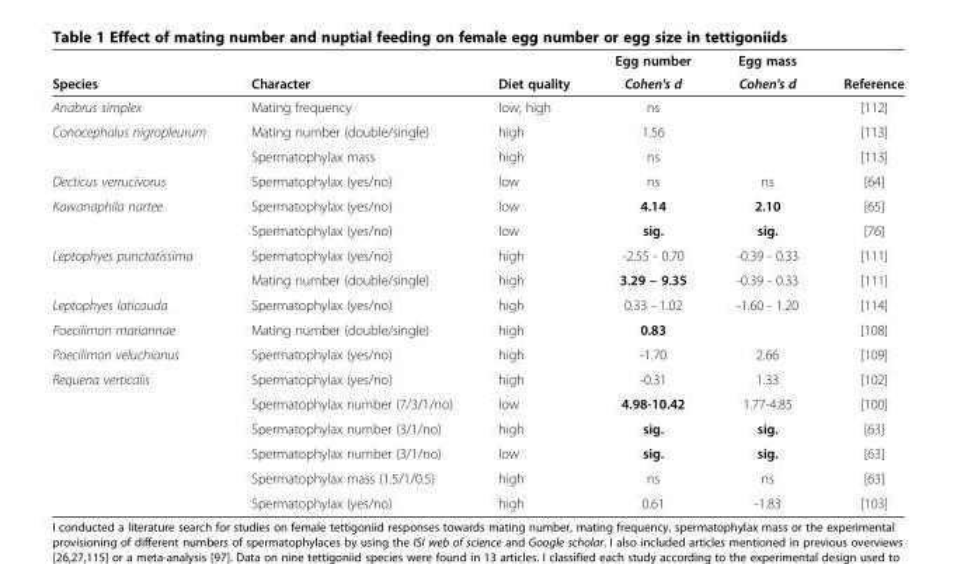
<table><thead><tr><td rowspan="2">Species</td><td rowspan="2">Character</td><td rowspan="2">Diet quality</td><td rowspan="2">Egg number Cohen&#x27;s d</td><td rowspan="2">Egg mass Cohen&#x27;s d</td><td rowspan="2">Reference</td></tr><tr></tr></thead><tbody><tr><td>Anabrus simplex</td><td>Mating frequency</td><td>low, high</td><td>ns</td><td></td><td>[112]</td></tr><tr><td rowspan="2">Conocephalus nigropleurum</td><td>Mating number (double/single)</td><td>high</td><td>1.56</td><td></td><td>[113]</td></tr><tr><td>Spermatophylax mass</td><td>high</td><td>ns</td><td></td><td>[113]</td></tr><tr><td>Decticus verrucivorus</td><td>Spermatophylax (yes/no)</td><td>low</td><td>ns</td><td>ns</td><td>[64]</td></tr><tr><td rowspan="2">Kawanaphila nartee</td><td>Spermatophylax (yes/no)</td><td>low</td><td>4.14</td><td>2.10</td><td>[65]</td></tr><tr><td>Spermatophylax (yes/no)</td><td>low</td><td>sig.</td><td>sig.</td><td>[76]</td></tr><tr><td rowspan="2">Leptophyes punctatissima</td><td>Spermatophylax (yes/no)</td><td>high</td><td>-2.55 - 0.70</td><td>-0.39 - 0.33</td><td>[111]</td></tr><tr><td>Mating number (double/single)</td><td>high</td><td>3.29 – 9.35</td><td>-0.39 - 0.33</td><td>[111]</td></tr><tr><td>Leptophyes laticauda</td><td>Spermatophylax (yes/no)</td><td>high</td><td>0.33 - 1.02</td><td>-1.60 - 1.20</td><td>[114]</td></tr><tr><td>Poecilimon mariannae</td><td>Mating number (double/single)</td><td>high</td><td>0.83</td><td></td><td>[108]</td></tr><tr><td>Poecilimon veluchianus</td><td>Spermatophylax (yes/no)</td><td>high</td><td>-1.70</td><td>2.66</td><td>[109]</td></tr><tr><td rowspan="6">Requena verticalis</td><td>Spermatophylax (yes/no)</td><td>high</td><td>-0.31</td><td>1.33</td><td>[102]</td></tr><tr><td>Spermatophylax number (7/3/1/no)</td><td>low</td><td>4.98-10.42</td><td>1.77-4.85</td><td>[100]</td></tr><tr><td>Spermatophylax number (3/1/no)</td><td>high</td><td>sig.</td><td>sig.</td><td>[63]</td></tr><tr><td>Spermatophylax number (3/1/no)</td><td>low</td><td>sig.</td><td>sig.</td><td>[63]</td></tr><tr><td>Spermatophylax mass (1.5/1/0.5)</td><td>high</td><td>ns</td><td>ns</td><td>[63]</td></tr><tr><td>Spermatophylax (yes/no)</td><td>high</td><td>0.61</td><td>-1.83</td><td>[103]</td></tr></tbody></table>